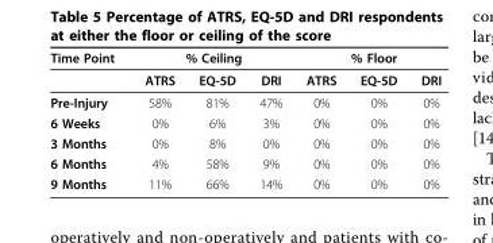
<table><thead><tr><td rowspan="2">Time Point</td><td colspan="3">% Ceiling</td><td colspan="3">% Floor</td></tr><tr><td>ATRS</td><td>EQ-5D</td><td>DRI</td><td>ATRS</td><td>EQ-5D</td><td>DRI</td></tr></thead><tbody><tr><td>Pre-Injury</td><td>58%</td><td>81%</td><td>47%</td><td>0%</td><td>0%</td><td>0%</td></tr><tr><td>6 Weeks</td><td>0%</td><td>6%</td><td>3%</td><td>0%</td><td>0%</td><td>0%</td></tr><tr><td>3 Months</td><td>0%</td><td>8%</td><td>0%</td><td>0%</td><td>0%</td><td>0%</td></tr><tr><td>6 Months</td><td>4%</td><td>58%</td><td>9%</td><td>0%</td><td>0%</td><td>0%</td></tr><tr><td>9 Months</td><td>11%</td><td>66%</td><td>14%</td><td>0%</td><td>0%</td><td>0%</td></tr></tbody></table>